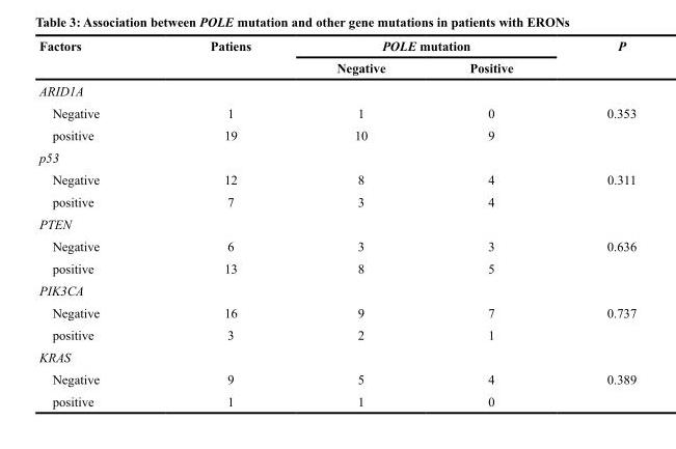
<table><thead><tr><td rowspan="2">Factors</td><td rowspan="2">Patiens</td><td colspan="2">POLE mutation</td><td rowspan="2">P</td></tr><tr><td>Negative</td><td>Positive</td></tr></thead><tbody><tr><td colspan="5">ARID1A</td></tr><tr><td>Negative</td><td>1</td><td>1</td><td>0</td><td>0.353</td></tr><tr><td>positive</td><td>19</td><td>10</td><td>9</td><td></td></tr><tr><td colspan="5">p53</td></tr><tr><td>Negative</td><td>12</td><td>8</td><td>4</td><td>0.311</td></tr><tr><td>positive</td><td>7</td><td>3</td><td>4</td><td></td></tr><tr><td colspan="5">PTEN</td></tr><tr><td>Negative</td><td>6</td><td>3</td><td>3</td><td>0.636</td></tr><tr><td>positive</td><td>13</td><td>8</td><td>5</td><td></td></tr><tr><td colspan="5">PIK3CA</td></tr><tr><td>Negative</td><td>16</td><td>9</td><td>7</td><td>0.737</td></tr><tr><td>positive</td><td>3</td><td>2</td><td>1</td><td></td></tr><tr><td colspan="5">KRAS</td></tr><tr><td>Negative</td><td>9</td><td>5</td><td>4</td><td>0.389</td></tr><tr><td>positive</td><td>1</td><td>1</td><td>0</td><td></td></tr></tbody></table>